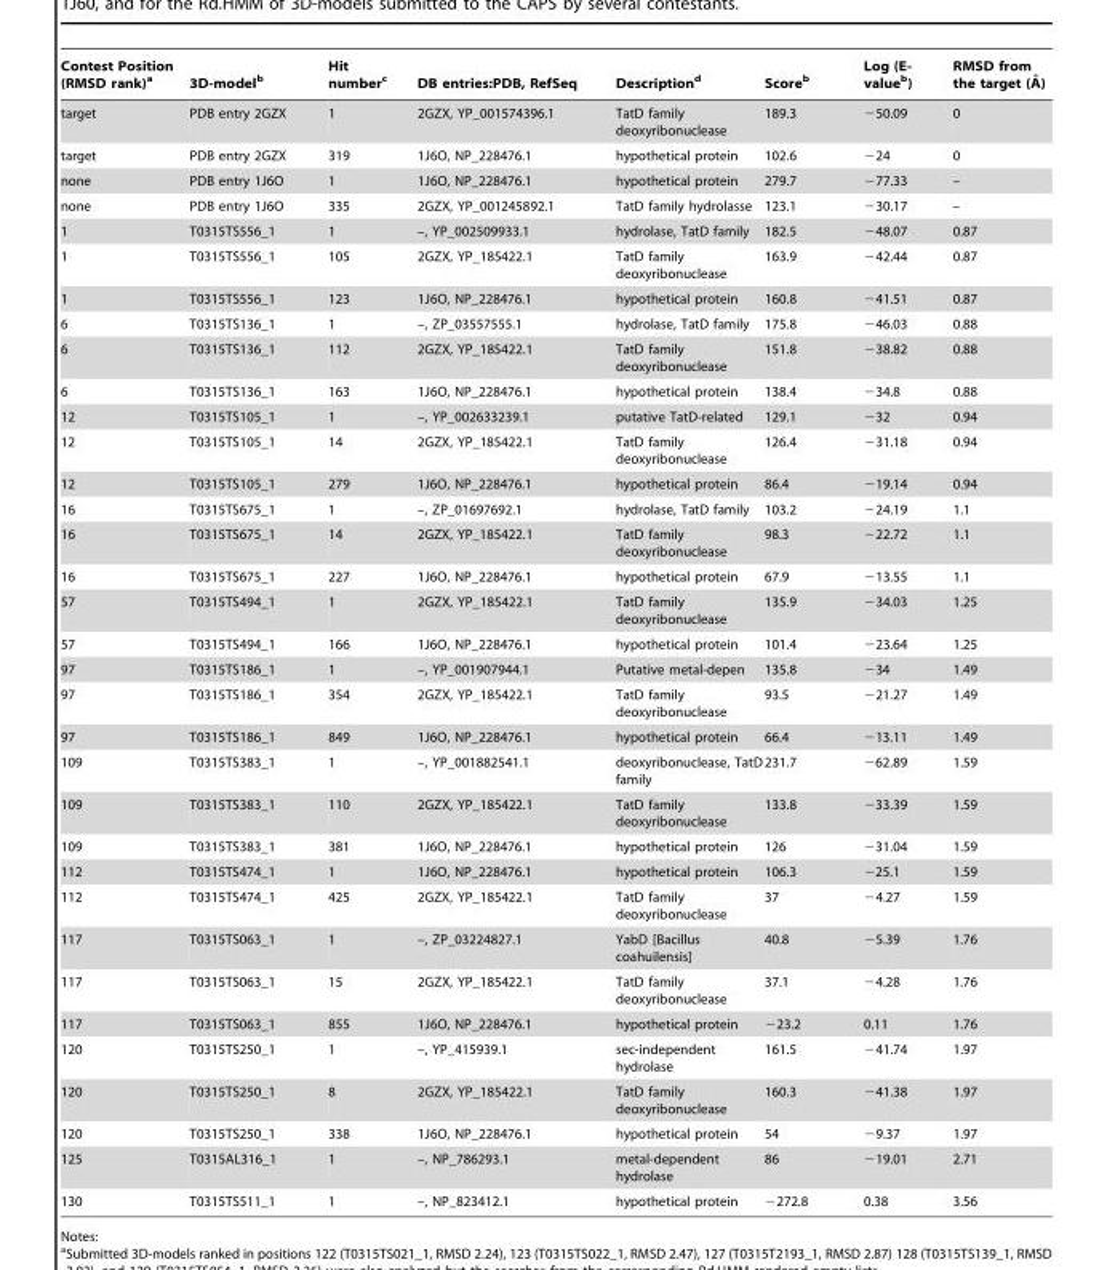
<table><thead><tr><td>Contest Position (RMSD rank)<sup>a</sup></td><td>3D-model<sup>b</sup></td><td>Hit number<sup>c</sup></td><td>DB entries:PDB, RefSeq</td><td>Description<sup>d</sup></td><td>Score<sup>b</sup></td><td>Log (E- value<sup>b</sup>)</td><td>RMSD from the target (A˚ )</td></tr></thead><tbody><tr><td>target</td><td>PDB entry 2GZX</td><td>1</td><td>2GZX, YP_001574396.1</td><td>TatD family deoxyribonuclease</td><td>189.3</td><td>−50.09</td><td>0</td></tr><tr><td>target</td><td>PDB entry 2GZX</td><td>319</td><td>1J6O, NP_228476.1</td><td>hypothetical protein</td><td>102.6</td><td>−24</td><td>0</td></tr><tr><td>none</td><td>PDB entry 1J6O</td><td>1</td><td>1J6O, NP_228476.1</td><td>hypothetical protein</td><td>279.7</td><td>−77.33</td><td>–</td></tr><tr><td>none</td><td>PDB entry 1J6O</td><td>335</td><td>2GZX, YP_001245892.1</td><td>TatD family hydrolasse</td><td>123.1</td><td>−30.17</td><td>–</td></tr><tr><td>1</td><td>T0315TS556_1</td><td>1</td><td>–, YP_002509933.1</td><td>hydrolase, TatD family</td><td>182.5</td><td>−48.07</td><td>0.87</td></tr><tr><td>1</td><td>T0315TS556_1</td><td>105</td><td>2GZX, YP_185422.1</td><td>TatD family deoxyribonuclease</td><td>163.9</td><td>−42.44</td><td>0.87</td></tr><tr><td>1</td><td>T0315TS556_1</td><td>123</td><td>1J6O, NP_228476.1</td><td>hypothetical protein</td><td>160.8</td><td>−41.51</td><td>0.87</td></tr><tr><td>6</td><td>T0315TS136_1</td><td>1</td><td>–, ZP_03557555.1</td><td>hydrolase, TatD family</td><td>175.8</td><td>−46.03</td><td>0.88</td></tr><tr><td>6</td><td>T0315TS136_1</td><td>112</td><td>2GZX, YP_185422.1</td><td>TatD family deoxyribonuclease</td><td>151.8</td><td>−38.82</td><td>0.88</td></tr><tr><td>6</td><td>T0315TS136_1</td><td>163</td><td>1J6O, NP_228476.1</td><td>hypothetical protein</td><td>138.4</td><td>−34.8</td><td>0.88</td></tr><tr><td>12</td><td>T0315TS105_1</td><td>1</td><td>–, YP_002633239.1</td><td>putative TatD-related</td><td>129.1</td><td>−32</td><td>0.94</td></tr><tr><td>12</td><td>T0315TS105_1</td><td>14</td><td>2GZX, YP_185422.1</td><td>TatD family deoxyribonuclease</td><td>126.4</td><td>−31.18</td><td>0.94</td></tr><tr><td>12</td><td>T0315TS105_1</td><td>279</td><td>1J6O, NP_228476.1</td><td>hypothetical protein</td><td>86.4</td><td>−19.14</td><td>0.94</td></tr><tr><td>16</td><td>T0315TS675_1</td><td>1</td><td>–, ZP_01697692.1</td><td>hydrolase, TatD family</td><td>103.2</td><td>−24.19</td><td>1.1</td></tr><tr><td>16</td><td>T0315TS675_1</td><td>14</td><td>2GZX, YP_185422.1</td><td>TatD family deoxyribonuclease</td><td>98.3</td><td>−22.72</td><td>1.1</td></tr><tr><td>16</td><td>T0315TS675_1</td><td>227</td><td>1J6O, NP_228476.1</td><td>hypothetical protein</td><td>67.9</td><td>−13.55</td><td>1.1</td></tr><tr><td>57</td><td>T0315TS494_1</td><td>1</td><td>2GZX, YP_185422.1</td><td>TatD family deoxyribonuclease</td><td>135.9</td><td>−34.03</td><td>1.25</td></tr><tr><td>57</td><td>T0315TS494_1</td><td>166</td><td>1J6O, NP_228476.1</td><td>hypothetical protein</td><td>101.4</td><td>−23.64</td><td>1.25</td></tr><tr><td>97</td><td>T0315TS186_1</td><td>1</td><td>–, YP_001907944.1</td><td>Putative metal-depen</td><td>135.8</td><td>−34</td><td>1.49</td></tr><tr><td>97</td><td>T0315TS186_1</td><td>354</td><td>2GZX, YP_185422.1</td><td>TatD family deoxyribonuclease</td><td>93.5</td><td>−21.27</td><td>1.49</td></tr><tr><td>97</td><td>T0315TS186_1</td><td>849</td><td>1J6O, NP_228476.1</td><td>hypothetical protein</td><td>66.4</td><td>−13.11</td><td>1.49</td></tr><tr><td>109</td><td>T0315TS383_1</td><td>1</td><td>–, YP_001882541.1</td><td>deoxyribonuclease, TatD family</td><td>231.7</td><td>−62.89</td><td>1.59</td></tr><tr><td>109</td><td>T0315TS383_1</td><td>110</td><td>2GZX, YP_185422.1</td><td>TatD family deoxyribonuclease</td><td>133.8</td><td>−33.39</td><td>1.59</td></tr><tr><td>109</td><td>T0315TS383_1</td><td>381</td><td>1J6O, NP_228476.1</td><td>hypothetical protein</td><td>126</td><td>−31.04</td><td>1.59</td></tr><tr><td>112</td><td>T0315TS474_1</td><td>1</td><td>1J6O, NP_228476.1</td><td>hypothetical protein</td><td>106.3</td><td>−25.1</td><td>1.59</td></tr><tr><td>112</td><td>T0315TS474_1</td><td>425</td><td>2GZX, YP_185422.1</td><td>TatD family deoxyribonuclease</td><td>37</td><td>−4.27</td><td>1.59</td></tr><tr><td>117</td><td>T0315TS063_1</td><td>1</td><td>–, ZP_03224827.1</td><td>YabD [Bacillus coahuilensis]</td><td>40.8</td><td>−5.39</td><td>1.76</td></tr><tr><td>117</td><td>T0315TS063_1</td><td>15</td><td>2GZX, YP_185422.1</td><td>TatD family deoxyribonuclease</td><td>37.1</td><td>−4.28</td><td>1.76</td></tr><tr><td>117</td><td>T0315TS063_1</td><td>855</td><td>1J6O, NP_228476.1</td><td>hypothetical protein</td><td>−23.2</td><td>0.11</td><td>1.76</td></tr><tr><td>120</td><td>T0315TS250_1</td><td>1</td><td>–, YP_415939.1</td><td>sec-independent hydrolase</td><td>161.5</td><td>−41.74</td><td>1.97</td></tr><tr><td>120</td><td>T0315TS250_1</td><td>8</td><td>2GZX, YP_185422.1</td><td>TatD family deoxyribonuclease</td><td>160.3</td><td>−41.38</td><td>1.97</td></tr><tr><td>120</td><td>T0315TS250_1</td><td>338</td><td>1J6O, NP_228476.1</td><td>hypothetical protein</td><td>54</td><td>−9.37</td><td>1.97</td></tr><tr><td>125</td><td>T0315AL316_1</td><td>1</td><td>–, NP_786293.1</td><td>metal-dependent hydrolase</td><td>86</td><td>−19.01</td><td>2.71</td></tr><tr><td>130</td><td>T0315TS511_1</td><td>1</td><td>–, NP_823412.1</td><td>hypothetical protein</td><td>−272.8</td><td>0.38</td><td>3.56</td></tr></tbody></table>